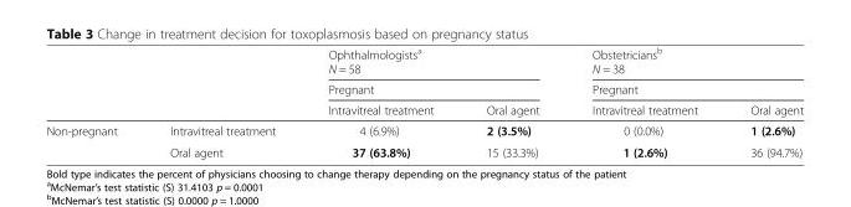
<table><thead><tr><td rowspan="3"></td><td rowspan="3"></td><td rowspan="2" colspan="2">Ophthalmologists<sup>a</sup> N = 58 Pregnant</td><td rowspan="2" colspan="2">Obstetricians<sup>b</sup> N = 38 Pregnant</td></tr><tr></tr><tr><td>Intravitreal treatment</td><td>Oral agent</td><td>Intravitreal treatment</td><td>Oral agent</td></tr></thead><tbody><tr><td rowspan="2">Non-pregnant</td><td>Intravitreal treatment</td><td>4 (6.9%)</td><td>2 (3.5%)</td><td>0 (0.0%)</td><td>1 (2.6%)</td></tr><tr><td>Oral agent</td><td>37 (63.8%)</td><td>15 (33.3%)</td><td>1 (2.6%)</td><td>36 (94.7%)</td></tr></tbody></table>